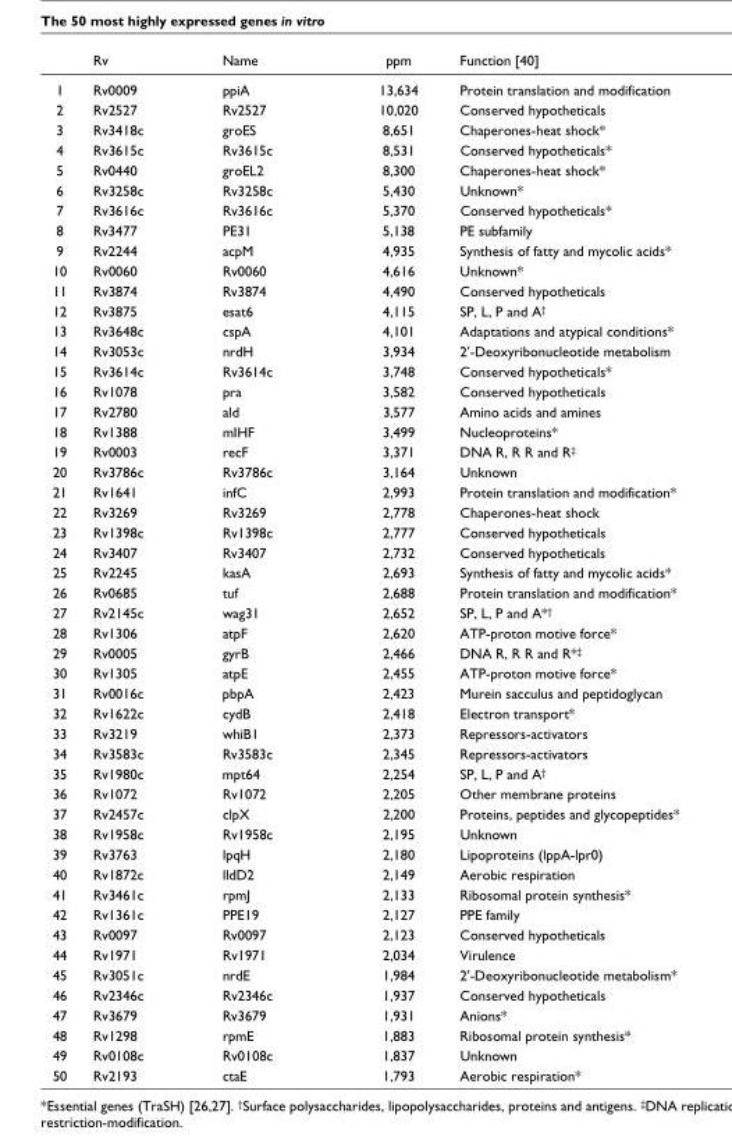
<table><thead><tr><td></td><td>Rv</td><td>Name</td><td>ppm</td><td>Function [40]</td></tr></thead><tbody><tr><td>1</td><td>Rv0009</td><td>ppiA</td><td>13,634</td><td>Protein translation and modification</td></tr><tr><td>2</td><td>Rv2527</td><td>Rv2527</td><td>10,020</td><td>Conserved hypotheticals</td></tr><tr><td>3</td><td>Rv3418c</td><td>groES</td><td>8,651</td><td>Chaperones-heat shock*</td></tr><tr><td>4</td><td>Rv3615c</td><td>Rv3615c</td><td>8,531</td><td>Conserved hypotheticals*</td></tr><tr><td>5</td><td>Rv0440</td><td>groEL2</td><td>8,300</td><td>Chaperones-heat shock*</td></tr><tr><td>6</td><td>Rv3258c</td><td>Rv3258c</td><td>5,430</td><td>Unknown*</td></tr><tr><td>7</td><td>Rv3616c</td><td>Rv3616c</td><td>5,370</td><td>Conserved hypotheticals*</td></tr><tr><td>8</td><td>Rv3477</td><td>PE31</td><td>5,138</td><td>PE subfamily</td></tr><tr><td>9</td><td>Rv2244</td><td>acpM</td><td>4,935</td><td>Synthesis of fatty and mycolic acids*</td></tr><tr><td>10</td><td>Rv0060</td><td>Rv0060</td><td>4,616</td><td>Unknown*</td></tr><tr><td>11</td><td>Rv3874</td><td>Rv3874</td><td>4,490</td><td>Conserved hypotheticals</td></tr><tr><td>12</td><td>Rv3875</td><td>esat6</td><td>4,115</td><td>SP, L, P and A<sup>†</sup></td></tr><tr><td>13</td><td>Rv3648c</td><td>cspA</td><td>4,101</td><td>Adaptations and atypical conditions*</td></tr><tr><td>14</td><td>Rv3053c</td><td>nrdH</td><td>3,934</td><td>2&#x27;-Deoxyribonucleotide metabolism</td></tr><tr><td>15</td><td>Rv3614c</td><td>Rv3614c</td><td>3,748</td><td>Conserved hypotheticals*</td></tr><tr><td>16</td><td>Rv1078</td><td>pra</td><td>3,582</td><td>Conserved hypotheticals</td></tr><tr><td>17</td><td>Rv2780</td><td>ald</td><td>3,577</td><td>Amino acids and amines</td></tr><tr><td>18</td><td>Rv1388</td><td>mIHF</td><td>3,499</td><td>Nucleoproteins*</td></tr><tr><td>19</td><td>Rv0003</td><td>recF</td><td>3,371</td><td>DNA R, R R and R<sup>‡</sup></td></tr><tr><td>20</td><td>Rv3786c</td><td>Rv3786c</td><td>3,164</td><td>Unknown</td></tr><tr><td>21</td><td>Rv1641</td><td>infC</td><td>2,993</td><td>Protein translation and modification*</td></tr><tr><td>22</td><td>Rv3269</td><td>Rv3269</td><td>2,778</td><td>Chaperones-heat shock</td></tr><tr><td>23</td><td>Rv1398c</td><td>Rv1398c</td><td>2,777</td><td>Conserved hypotheticals</td></tr><tr><td>24</td><td>Rv3407</td><td>Rv3407</td><td>2,732</td><td>Conserved hypotheticals</td></tr><tr><td>25</td><td>Rv2245</td><td>kasA</td><td>2,693</td><td>Synthesis of fatty and mycolic acids*</td></tr><tr><td>26</td><td>Rv0685</td><td>tuf</td><td>2,688</td><td>Protein translation and modification*</td></tr><tr><td>27</td><td>Rv2145c</td><td>wag31</td><td>2,652</td><td>SP, L, P and A*<sup>†</sup></td></tr><tr><td>28</td><td>Rv1306</td><td>atpF</td><td>2,620</td><td>ATP-proton motive force*</td></tr><tr><td>29</td><td>Rv0005</td><td>gyrB</td><td>2,466</td><td>DNA R, R R and R*<sup>‡</sup></td></tr><tr><td>30</td><td>Rv1305</td><td>atpE</td><td>2,455</td><td>ATP-proton motive force*</td></tr><tr><td>31</td><td>Rv0016c</td><td>pbpA</td><td>2,423</td><td>Murein sacculus and peptidoglycan</td></tr><tr><td>32</td><td>Rv1622c</td><td>cydB</td><td>2,418</td><td>Electron transport*</td></tr><tr><td>33</td><td>Rv3219</td><td>whiB1</td><td>2,373</td><td>Repressors-activators</td></tr><tr><td>34</td><td>Rv3583c</td><td>Rv3583c</td><td>2,345</td><td>Repressors-activators</td></tr><tr><td>35</td><td>Rv1980c</td><td>mpt64</td><td>2,254</td><td>SP, L, P and A<sup>†</sup></td></tr><tr><td>36</td><td>Rv1072</td><td>Rv1072</td><td>2,205</td><td>Other membrane proteins</td></tr><tr><td>37</td><td>Rv2457c</td><td>clpX</td><td>2,200</td><td>Proteins, peptides and glycopeptides*</td></tr><tr><td>38</td><td>Rv1958c</td><td>Rv1958c</td><td>2,195</td><td>Unknown</td></tr><tr><td>39</td><td>Rv3763</td><td>lpqH</td><td>2,180</td><td>Lipoproteins (lppA-lpr0)</td></tr><tr><td>40</td><td>Rv1872c</td><td>lldD2</td><td>2,149</td><td>Aerobic respiration</td></tr><tr><td>41</td><td>Rv3461c</td><td>rpmJ</td><td>2,133</td><td>Ribosomal protein synthesis*</td></tr><tr><td>42</td><td>Rv1361c</td><td>PPE19</td><td>2,127</td><td>PPE family</td></tr><tr><td>43</td><td>Rv0097</td><td>Rv0097</td><td>2,123</td><td>Conserved hypotheticals</td></tr><tr><td>44</td><td>Rv1971</td><td>Rv1971</td><td>2,034</td><td>Virulence</td></tr><tr><td>45</td><td>Rv3051c</td><td>nrdE</td><td>1,984</td><td>2&#x27;-Deoxyribonucleotide metabolism*</td></tr><tr><td>46</td><td>Rv2346c</td><td>Rv2346c</td><td>1,937</td><td>Conserved hypotheticals</td></tr><tr><td>47</td><td>Rv3679</td><td>Rv3679</td><td>1,931</td><td>Anions*</td></tr><tr><td>48</td><td>Rv1298</td><td>rpmE</td><td>1,883</td><td>Ribosomal protein synthesis*</td></tr><tr><td>49</td><td>Rv0108c</td><td>Rv0108c</td><td>1,837</td><td>Unknown</td></tr><tr><td>50</td><td>Rv2193</td><td>ctaE</td><td>1,793</td><td>Aerobic respiration*</td></tr></tbody></table>